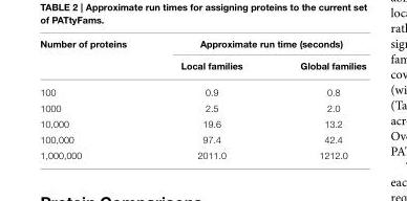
<table><thead><tr><td rowspan="2">Number of proteins</td><td colspan="2">Approximate run time (seconds)</td></tr><tr><td>Local families</td><td>Global families</td></tr></thead><tbody><tr><td>100</td><td>0.9</td><td>0.8</td></tr><tr><td>1000</td><td>2.5</td><td>2.0</td></tr><tr><td>10,000</td><td>19.6</td><td>13.2</td></tr><tr><td>100,000</td><td>97.4</td><td>42.4</td></tr><tr><td>1,000,000</td><td>2011.0</td><td>1212.0</td></tr></tbody></table>